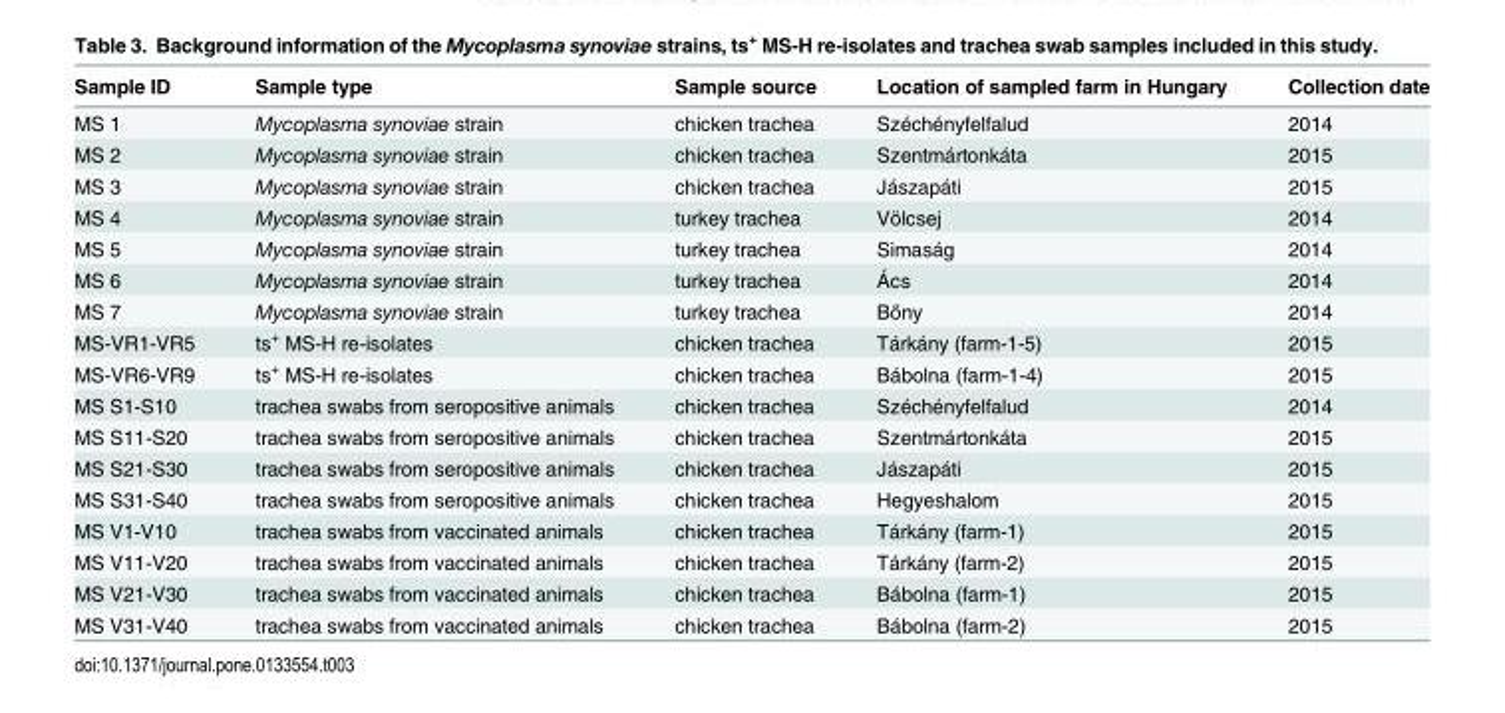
<table><thead><tr><td>Sample ID</td><td>Sample type</td><td>Sample source</td><td>Location of sampled farm in Hungary</td><td>Collection date</td></tr></thead><tbody><tr><td>MS 1</td><td>Mycoplasma synoviae strain</td><td>chicken trachea</td><td>Széchényfelfalud</td><td>2014</td></tr><tr><td>MS 2</td><td>Mycoplasma synoviae strain</td><td>chicken trachea</td><td>Szentmártonkáta</td><td>2015</td></tr><tr><td>MS 3</td><td>Mycoplasma synoviae strain</td><td>chicken trachea</td><td>Jászapáti</td><td>2015</td></tr><tr><td>MS 4</td><td>Mycoplasma synoviae strain</td><td>turkey trachea</td><td>Völcsej</td><td>2014</td></tr><tr><td>MS 5</td><td>Mycoplasma synoviae strain</td><td>turkey trachea</td><td>Simaság</td><td>2014</td></tr><tr><td>MS 6</td><td>Mycoplasma synoviae strain</td><td>turkey trachea</td><td>Ács</td><td>2014</td></tr><tr><td>MS 7</td><td>Mycoplasma synoviae strain</td><td>turkey trachea</td><td>Bőny</td><td>2014</td></tr><tr><td>MS-VR1-VR5</td><td>ts<sup>+</sup> MS-H re-isolates</td><td>chicken trachea</td><td>Tárkány (farm-1-5)</td><td>2015</td></tr><tr><td>MS-VR6-VR9</td><td>ts<sup>+</sup> MS-H re-isolates</td><td>chicken trachea</td><td>Bábolna (farm-1-4)</td><td>2015</td></tr><tr><td>MS S1-S10</td><td>trachea swabs from seropositive animals</td><td>chicken trachea</td><td>Széchényfelfalud</td><td>2014</td></tr><tr><td>MS S11-S20</td><td>trachea swabs from seropositive animals</td><td>chicken trachea</td><td>Szentmártonkáta</td><td>2015</td></tr><tr><td>MS S21-S30</td><td>trachea swabs from seropositive animals</td><td>chicken trachea</td><td>Jászapáti</td><td>2015</td></tr><tr><td>MS S31-S40</td><td>trachea swabs from seropositive animals</td><td>chicken trachea</td><td>Hegyeshalom</td><td>2015</td></tr><tr><td>MS V1-V10</td><td>trachea swabs from vaccinated animals</td><td>chicken trachea</td><td>Tárkány (farm-1)</td><td>2015</td></tr><tr><td>MS V11-V20</td><td>trachea swabs from vaccinated animals</td><td>chicken trachea</td><td>Tárkány (farm-2)</td><td>2015</td></tr><tr><td>MS V21-V30</td><td>trachea swabs from vaccinated animals</td><td>chicken trachea</td><td>Bábolna (farm-1)</td><td>2015</td></tr><tr><td>MS V31-V40</td><td>trachea swabs from vaccinated animals</td><td>chicken trachea</td><td>Bábolna (farm-2)</td><td>2015</td></tr></tbody></table>